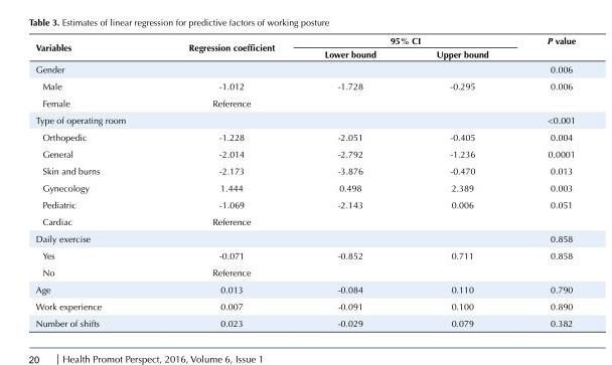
<table><tbody><tr><td rowspan="2">Variables</td><td rowspan="2">Regression coefficient</td><td colspan="2">95% CI</td><td rowspan="2">P value</td></tr><tr><td>Lower bound</td><td>Upper bound</td></tr><tr><td>Gender</td><td></td><td></td><td></td><td>0.006</td></tr><tr><td>Male</td><td>-1.012</td><td>-1.728</td><td>-0.295</td><td>0.006</td></tr><tr><td>Female</td><td>Reference</td><td></td><td></td><td></td></tr><tr><td>Type of operating room</td><td></td><td></td><td></td><td>&lt;0.001</td></tr><tr><td>Orthopedic</td><td>-1.228</td><td>-2.051</td><td>-0.405</td><td>0.004</td></tr><tr><td>General</td><td>-2.014</td><td>-2.792</td><td>-1.236</td><td>0.0001</td></tr><tr><td>Skin and burns</td><td>-2.173</td><td>-3.876</td><td>-0.470</td><td>0.013</td></tr><tr><td>Gynecology</td><td>1.444</td><td>0.498</td><td>2.389</td><td>0.003</td></tr><tr><td>Pediatric</td><td>-1.069</td><td>-2.143</td><td>0.006</td><td>0.051</td></tr><tr><td>Cardiac</td><td>Reference</td><td></td><td></td><td></td></tr><tr><td>Daily exercise</td><td></td><td></td><td></td><td>0.858</td></tr><tr><td>Yes</td><td>-0.071</td><td>-0.852</td><td>0.711</td><td>0.858</td></tr><tr><td>No</td><td>Reference</td><td></td><td></td><td></td></tr><tr><td>Age</td><td>0.013</td><td>-0.084</td><td>0.110</td><td>0.790</td></tr><tr><td>Work experience</td><td>0.007</td><td>-0.091</td><td>0.100</td><td>0.890</td></tr><tr><td>Number of shifts</td><td>0.023</td><td>-0.029</td><td>0.079</td><td>0.382</td></tr></tbody></table>